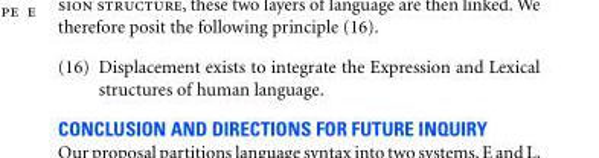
<table><tbody><tr><td>(16)</td><td>Displacement exists to integrate the Expression and Lexical structures of human language.</td></tr></tbody></table>